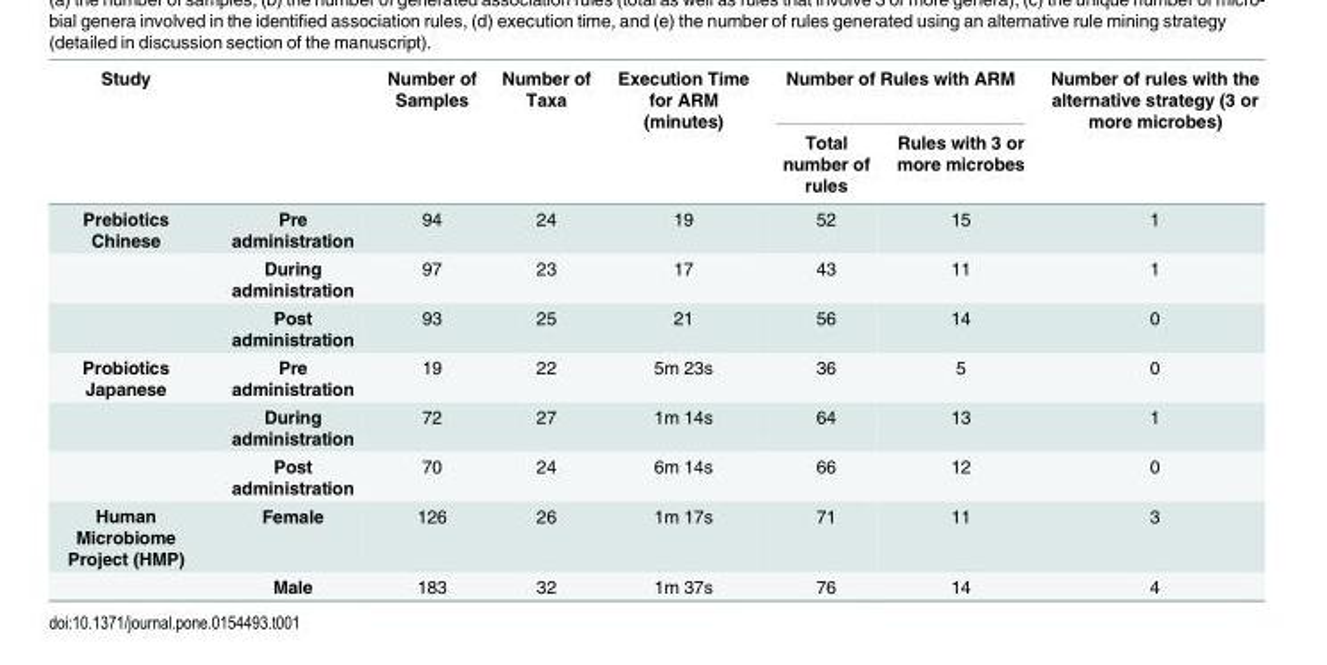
<table><thead><tr><td rowspan="2">Study</td><td rowspan="2"></td><td rowspan="2">Number of Samples</td><td rowspan="2">Number of Taxa</td><td rowspan="2">Execution Time for ARM (minutes)</td><td colspan="2">Number of Rules with ARM</td><td rowspan="2">Number of rules with the alternative strategy (3 or more microbes)</td></tr><tr><td>Total number of rules</td><td>Rules with 3 or more microbes</td></tr></thead><tbody><tr><td rowspan="3">Prebiotics Chinese</td><td>Pre administration</td><td>94</td><td>24</td><td>19</td><td>52</td><td>15</td><td>1</td></tr><tr><td>During administration</td><td>97</td><td>23</td><td>17</td><td>43</td><td>11</td><td>1</td></tr><tr><td>Post administration</td><td>93</td><td>25</td><td>21</td><td>56</td><td>14</td><td>0</td></tr><tr><td rowspan="3">Probiotics Japanese</td><td>Pre administration</td><td>19</td><td>22</td><td>5m 23s</td><td>36</td><td>5</td><td>0</td></tr><tr><td>During administration</td><td>72</td><td>27</td><td>1m 14s</td><td>64</td><td>13</td><td>1</td></tr><tr><td>Post administration</td><td>70</td><td>24</td><td>6m 14s</td><td>66</td><td>12</td><td>0</td></tr><tr><td rowspan="2">Human Microbiome Project (HMP)</td><td>Female</td><td>126</td><td>26</td><td>1m 17s</td><td>71</td><td>11</td><td>3</td></tr><tr><td>Male</td><td>183</td><td>32</td><td>1m 37s</td><td>76</td><td>14</td><td>4</td></tr></tbody></table>